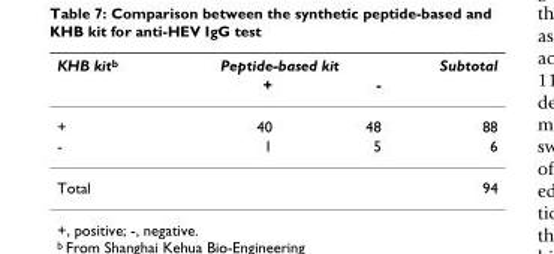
<table><thead><tr><td rowspan="2">KHB kit<sup>b</sup></td><td colspan="2">Peptide-based kit</td><td rowspan="2">Subtotal</td></tr><tr><td>+</td><td>-</td></tr></thead><tbody><tr><td>+</td><td>40</td><td>48</td><td>88</td></tr><tr><td>-</td><td>1</td><td>5</td><td>6</td></tr><tr><td>Total</td><td></td><td></td><td>94</td></tr></tbody></table>